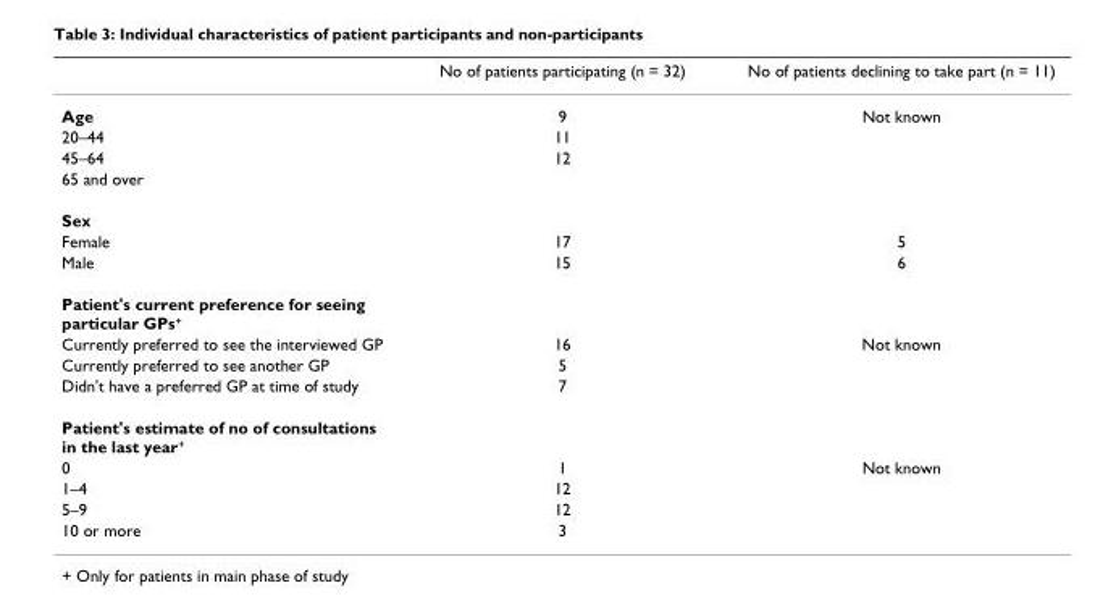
<table><thead><tr><td></td><td>No of patients participating (n = 32)</td><td>No of patients declining to take part (n = 11)</td></tr></thead><tbody><tr><td>Age</td><td>9</td><td>Not known</td></tr><tr><td>20–44</td><td>11</td><td></td></tr><tr><td>45–64</td><td>12</td><td></td></tr><tr><td colspan="3">65 and over</td></tr><tr><td colspan="3">Sex</td></tr><tr><td>Female</td><td>17</td><td>5</td></tr><tr><td>Male</td><td>15</td><td>6</td></tr><tr><td colspan="3">Patient&#x27;s current preference for seeing particular GPs<sup>+</sup></td></tr><tr><td>Currently preferred to see the interviewed GP</td><td>16</td><td>Not known</td></tr><tr><td>Currently preferred to see another GP</td><td>5</td><td></td></tr><tr><td>Didn&#x27;t have a preferred GP at time of study</td><td>7</td><td></td></tr><tr><td colspan="3">Patient&#x27;s estimate of no of consultations in the last year<sup>+</sup></td></tr><tr><td>0</td><td>1</td><td>Not known</td></tr><tr><td>1–4</td><td>12</td><td></td></tr><tr><td>5–9</td><td>12</td><td></td></tr><tr><td>10 or more</td><td>3</td><td></td></tr></tbody></table>